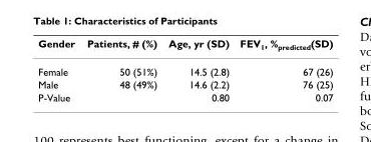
<table><thead><tr><td>Gender</td><td>Patients, # (%)</td><td>Age, yr (SD)</td><td>FEV<sub>1</sub>, %<sub>predicted</sub>(SD)</td></tr></thead><tbody><tr><td>Female</td><td>50 (51%)</td><td>14.5 (2.8)</td><td>67 (26)</td></tr><tr><td>Male</td><td>48 (49%)</td><td>14.6 (2.2)</td><td>76 (25)</td></tr><tr><td>P-Value</td><td></td><td>0.80</td><td>0.07</td></tr></tbody></table>